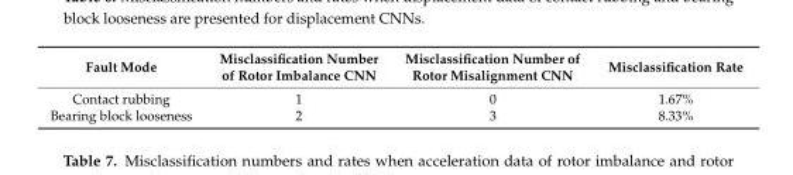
<table><thead><tr><td>Fault Mode</td><td>Misclassification Number of Rotor Imbalance CNN</td><td>Misclassification Number of Rotor Misalignment CNN</td><td>Misclassification Rate</td></tr></thead><tbody><tr><td>Contact rubbing</td><td>1</td><td>0</td><td>1.67%</td></tr><tr><td>Bearing block looseness</td><td>2</td><td>3</td><td>8.33%</td></tr></tbody></table>